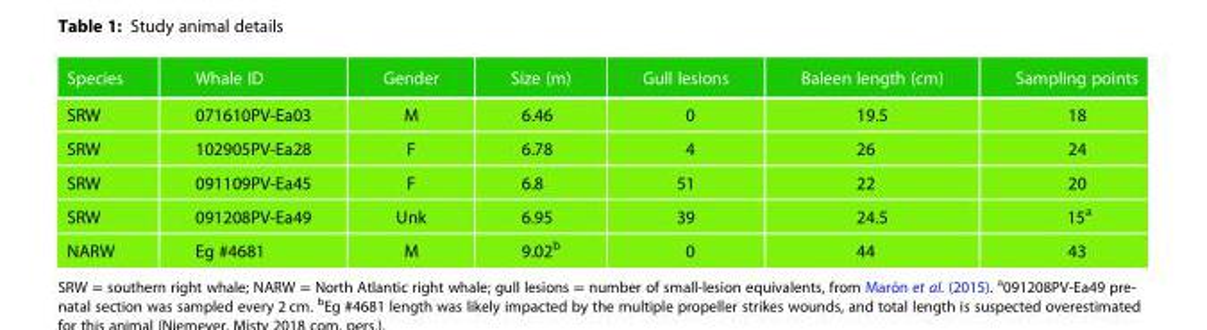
<table><thead><tr><td>Species</td><td>Whale ID</td><td>Gender</td><td>Size (m)</td><td>Gull lesions</td><td>Baleen length (cm)</td><td>Sampling points</td></tr></thead><tbody><tr><td>SRW</td><td>071610PV-Ea03</td><td>M</td><td>6.46</td><td>0</td><td>19.5</td><td>18</td></tr><tr><td>SRW</td><td>102905PV-Ea28</td><td>F</td><td>6.78</td><td>4</td><td>26</td><td>24</td></tr><tr><td>SRW</td><td>091109PV-Ea45</td><td>F</td><td>6.8</td><td>51</td><td>22</td><td>20</td></tr><tr><td>SRW</td><td>091208PV-Ea49</td><td>Unk</td><td>6.95</td><td>39</td><td>24.5</td><td>15<sup>a</sup></td></tr><tr><td>NARW</td><td>Eg #4681</td><td>M</td><td>9.02<sup>b</sup></td><td>0</td><td>44</td><td>43</td></tr></tbody></table>